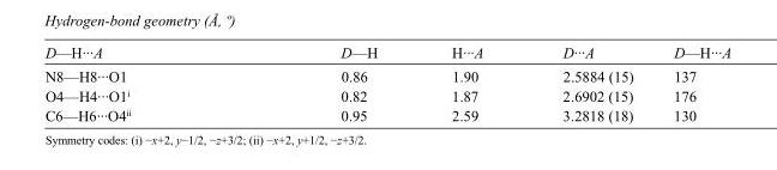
<table><tbody><tr><td>D—H···A</td><td>D—H</td><td>H···A</td><td>D···A</td><td>D—H···A</td></tr><tr><td>N8—H8···O1</td><td>0.86</td><td>1.90</td><td>2.5884 (15)</td><td>137</td></tr><tr><td>O4—H4···O1<sup>i</sup></td><td>0.82</td><td>1.87</td><td>2.6902 (15)</td><td>176</td></tr><tr><td>C6—H6···O4<sup>ii</sup></td><td>0.95</td><td>2.59</td><td>3.2818 (18)</td><td>130</td></tr></tbody></table>